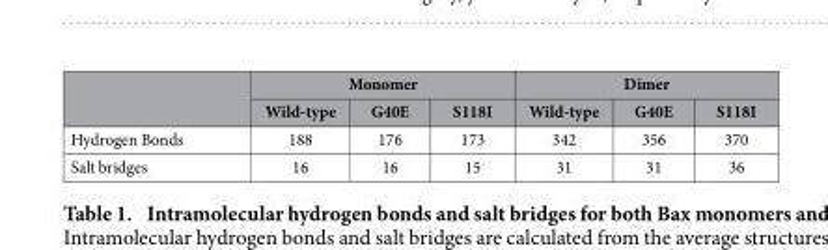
<table><thead><tr><td rowspan="2"></td><td colspan="3">Monomer</td><td colspan="3">Dimer</td></tr><tr><td>Wild-type</td><td>G40E</td><td>S118I</td><td>Wild-type</td><td>G40E</td><td>S118I</td></tr></thead><tbody><tr><td>Hydrogen Bonds</td><td>188</td><td>176</td><td>173</td><td>342</td><td>356</td><td>370</td></tr><tr><td>Salt bridges</td><td>16</td><td>16</td><td>15</td><td>31</td><td>31</td><td>36</td></tr></tbody></table>